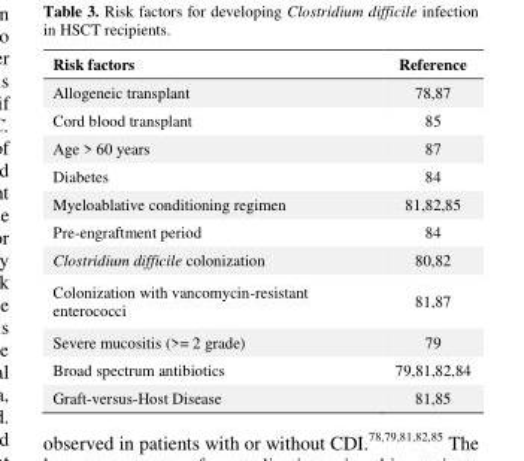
<table><thead><tr><td>Risk factors</td><td>Reference</td></tr></thead><tbody><tr><td>Allogeneic transplant</td><td>78,87</td></tr><tr><td>Cord blood transplant</td><td>85</td></tr><tr><td>Age &gt; 60 years</td><td>87</td></tr><tr><td>Diabetes</td><td>84</td></tr><tr><td>Myeloablative conditioning regimen</td><td>81,82,85</td></tr><tr><td>Pre-engraftment period</td><td>84</td></tr><tr><td>Clostridium difficile colonization</td><td>80,82</td></tr><tr><td>Colonization with vancomycin-resistant enterococci</td><td>81,87</td></tr><tr><td>Severe mucositis (&gt;= 2 grade)</td><td>79</td></tr><tr><td>Broad spectrum antibiotics</td><td>79,81,82,84</td></tr><tr><td>Graft-versus-Host Disease</td><td>81,85</td></tr></tbody></table>